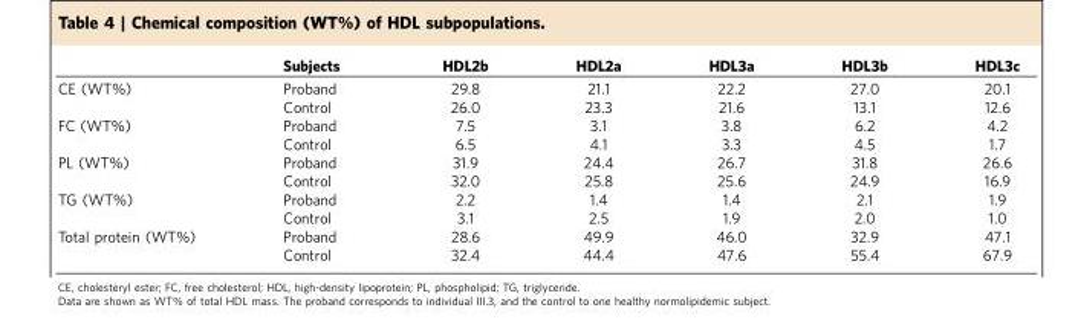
<table><thead><tr><td></td><td>Subjects</td><td>HDL2b</td><td>HDL2a</td><td>HDL3a</td><td>HDL3b</td><td>HDL3c</td></tr></thead><tbody><tr><td rowspan="2">CE (WT%)</td><td>Proband</td><td>29.8</td><td>21.1</td><td>22.2</td><td>27.0</td><td>20.1</td></tr><tr><td>Control</td><td>26.0</td><td>23.3</td><td>21.6</td><td>13.1</td><td>12.6</td></tr><tr><td rowspan="2">FC (WT%)</td><td>Proband</td><td>7.5</td><td>3.1</td><td>3.8</td><td>6.2</td><td>4.2</td></tr><tr><td>Control</td><td>6.5</td><td>4.1</td><td>3.3</td><td>4.5</td><td>1.7</td></tr><tr><td rowspan="2">PL (WT%)</td><td>Proband</td><td>31.9</td><td>24.4</td><td>26.7</td><td>31.8</td><td>26.6</td></tr><tr><td>Control</td><td>32.0</td><td>25.8</td><td>25.6</td><td>24.9</td><td>16.9</td></tr><tr><td rowspan="2">TG (WT%)</td><td>Proband</td><td>2.2</td><td>1.4</td><td>1.4</td><td>2.1</td><td>1.9</td></tr><tr><td>Control</td><td>3.1</td><td>2.5</td><td>1.9</td><td>2.0</td><td>1.0</td></tr><tr><td rowspan="2">Total protein (WT%)</td><td>Proband</td><td>28.6</td><td>49.9</td><td>46.0</td><td>32.9</td><td>47.1</td></tr><tr><td>Control</td><td>32.4</td><td>44.4</td><td>47.6</td><td>55.4</td><td>67.9</td></tr></tbody></table>